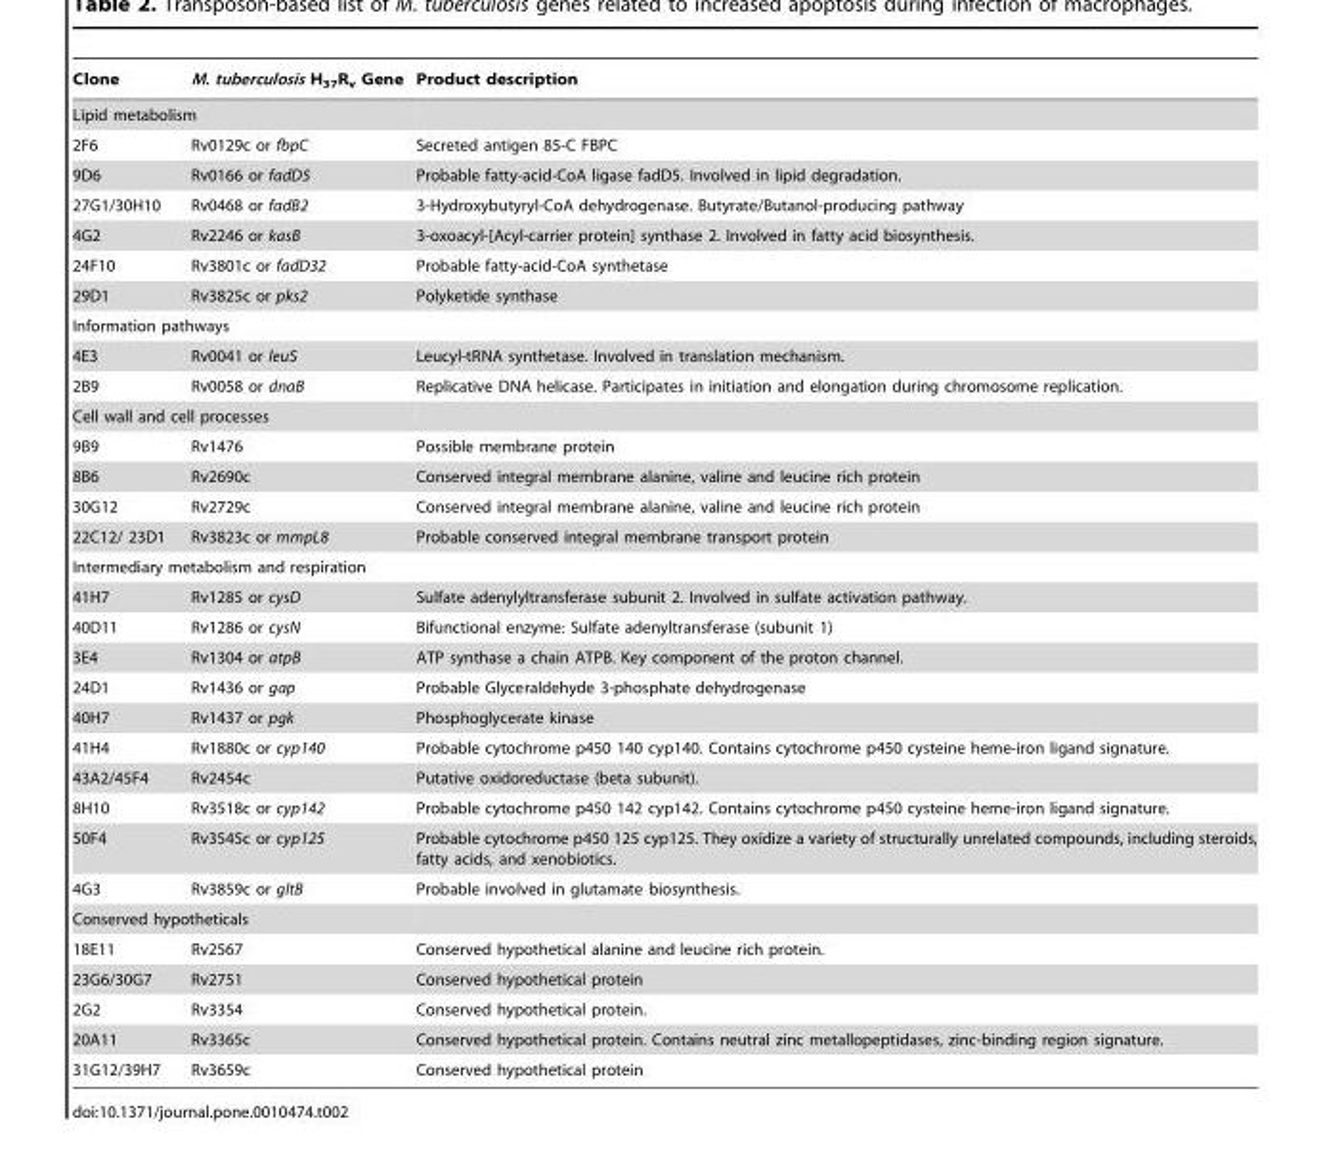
<table><thead><tr><td>Clone</td><td>M. tuberculosis H<sub>37</sub>R<sub>v</sub> Gene</td><td>Product description</td></tr></thead><tbody><tr><td colspan="3">Lipid metabolism</td></tr><tr><td>2F6</td><td>Rv0129c or fbpC</td><td>Secreted antigen 85-C FBPC</td></tr><tr><td>9D6</td><td>Rv0166 or fadD5</td><td>Probable fatty-acid-CoA ligase fadD5. Involved in lipid degradation.</td></tr><tr><td>27G1/30H10</td><td>Rv0468 or fadB2</td><td>3-Hydroxybutyryl-CoA dehydrogenase. Butyrate/Butanol-producing pathway</td></tr><tr><td>4G2</td><td>Rv2246 or kasB</td><td>3-oxoacyl-[Acyl-carrier protein] synthase 2. Involved in fatty acid biosynthesis.</td></tr><tr><td>24F10</td><td>Rv3801c or fadD32</td><td>Probable fatty-acid-CoA synthetase</td></tr><tr><td>29D1</td><td>Rv3825c or pks2</td><td>Polyketide synthase</td></tr><tr><td colspan="3">Information pathways</td></tr><tr><td>4E3</td><td>Rv0041 or leuS</td><td>Leucyl-tRNA synthetase. Involved in translation mechanism.</td></tr><tr><td>2B9</td><td>Rv0058 or dnaB</td><td>Replicative DNA helicase. Participates in initiation and elongation during chromosome replication.</td></tr><tr><td colspan="3">Cell wall and cell processes</td></tr><tr><td>9B9</td><td>Rv1476</td><td>Possible membrane protein</td></tr><tr><td>8B6</td><td>Rv2690c</td><td>Conserved integral membrane alanine, valine and leucine rich protein</td></tr><tr><td>30G12</td><td>Rv2729c</td><td>Conserved integral membrane alanine, valine and leucine rich protein</td></tr><tr><td>22C12/ 23D1</td><td>Rv3823c or mmpL8</td><td>Probable conserved integral membrane transport protein</td></tr><tr><td colspan="3">Intermediary metabolism and respiration</td></tr><tr><td>41H7</td><td>Rv1285 or cysD</td><td>Sulfate adenylyltransferase subunit 2. Involved in sulfate activation pathway.</td></tr><tr><td>40D11</td><td>Rv1286 or cysN</td><td>Bifunctional enzyme: Sulfate adenyltransferase (subunit 1)</td></tr><tr><td>3E4</td><td>Rv1304 or atpB</td><td>ATP synthase a chain ATPB. Key component of the proton channel.</td></tr><tr><td>24D1</td><td>Rv1436 or gap</td><td>Probable Glyceraldehyde 3-phosphate dehydrogenase</td></tr><tr><td>40H7</td><td>Rv1437 or pgk</td><td>Phosphoglycerate kinase</td></tr><tr><td>41H4</td><td>Rv1880c or cyp140</td><td>Probable cytochrome p450 140 cyp140. Contains cytochrome p450 cysteine heme-iron ligand signature.</td></tr><tr><td>43A2/45F4</td><td>Rv2454c</td><td>Putative oxidoreductase (beta subunit).</td></tr><tr><td>8H10</td><td>Rv3518c or cyp142</td><td>Probable cytochrome p450 142 cyp142. Contains cytochrome p450 cysteine heme-iron ligand signature.</td></tr><tr><td>50F4</td><td>Rv3545c or cyp125</td><td>Probable cytochrome p450 125 cyp125. They oxidize a variety of structurally unrelated compounds, including steroids, fatty acids, and xenobiotics.</td></tr><tr><td>4G3</td><td>Rv3859c or gltB</td><td>Probable involved in glutamate biosynthesis.</td></tr><tr><td colspan="3">Conserved hypotheticals</td></tr><tr><td>18E11</td><td>Rv2567</td><td>Conserved hypothetical alanine and leucine rich protein.</td></tr><tr><td>23G6/30G7</td><td>Rv2751</td><td>Conserved hypothetical protein</td></tr><tr><td>2G2</td><td>Rv3354</td><td>Conserved hypothetical protein.</td></tr><tr><td>20A11</td><td>Rv3365c</td><td>Conserved hypothetical protein. Contains neutral zinc metallopeptidases, zinc-binding region signature.</td></tr><tr><td>31G12/39H7</td><td>Rv3659c</td><td>Conserved hypothetical protein</td></tr></tbody></table>